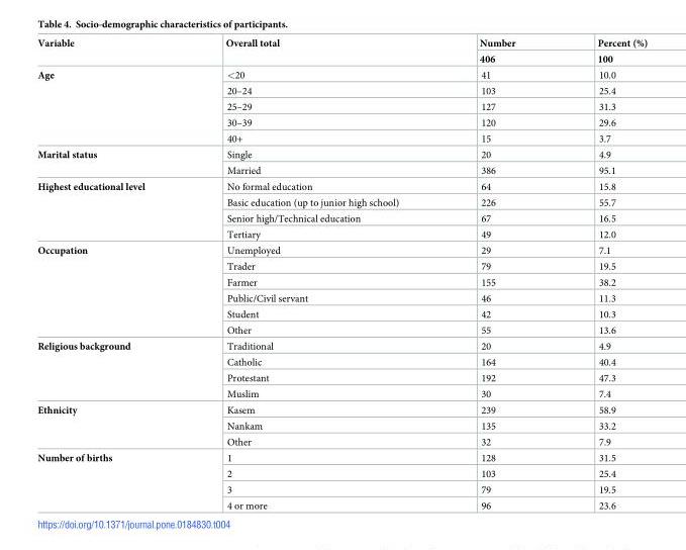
<table><thead><tr><td rowspan="2">Variable</td><td rowspan="2">Overall total</td><td rowspan="2">Number 406</td><td rowspan="2">Percent (%) 100</td></tr><tr></tr></thead><tbody><tr><td rowspan="5">Age</td><td>&lt;20</td><td>41</td><td>10.0</td></tr><tr><td>20–24</td><td>103</td><td>25.4</td></tr><tr><td>25–29</td><td>127</td><td>31.3</td></tr><tr><td>30–39</td><td>120</td><td>29.6</td></tr><tr><td>40+</td><td>15</td><td>3.7</td></tr><tr><td rowspan="2">Marital status</td><td>Single</td><td>20</td><td>4.9</td></tr><tr><td>Married</td><td>386</td><td>95.1</td></tr><tr><td rowspan="4">Highest educational level</td><td>No formal education</td><td>64</td><td>15.8</td></tr><tr><td>Basic education (up to junior high school)</td><td>226</td><td>55.7</td></tr><tr><td>Senior high/Technical education</td><td>67</td><td>16.5</td></tr><tr><td>Tertiary</td><td>49</td><td>12.0</td></tr><tr><td rowspan="6">Occupation</td><td>Unemployed</td><td>29</td><td>7.1</td></tr><tr><td>Trader</td><td>79</td><td>19.5</td></tr><tr><td>Farmer</td><td>155</td><td>38.2</td></tr><tr><td>Public/Civil servant</td><td>46</td><td>11.3</td></tr><tr><td>Student</td><td>42</td><td>10.3</td></tr><tr><td>Other</td><td>55</td><td>13.6</td></tr><tr><td rowspan="4">Religious background</td><td>Traditional</td><td>20</td><td>4.9</td></tr><tr><td>Catholic</td><td>164</td><td>40.4</td></tr><tr><td>Protestant</td><td>192</td><td>47.3</td></tr><tr><td>Muslim</td><td>30</td><td>7.4</td></tr><tr><td rowspan="3">Ethnicity</td><td>Kasem</td><td>239</td><td>58.9</td></tr><tr><td>Nankam</td><td>135</td><td>33.2</td></tr><tr><td>Other</td><td>32</td><td>7.9</td></tr><tr><td rowspan="4">Number of births</td><td>1</td><td>128</td><td>31.5</td></tr><tr><td>2</td><td>103</td><td>25.4</td></tr><tr><td>3</td><td>79</td><td>19.5</td></tr><tr><td>4 or more</td><td>96</td><td>23.6</td></tr></tbody></table>